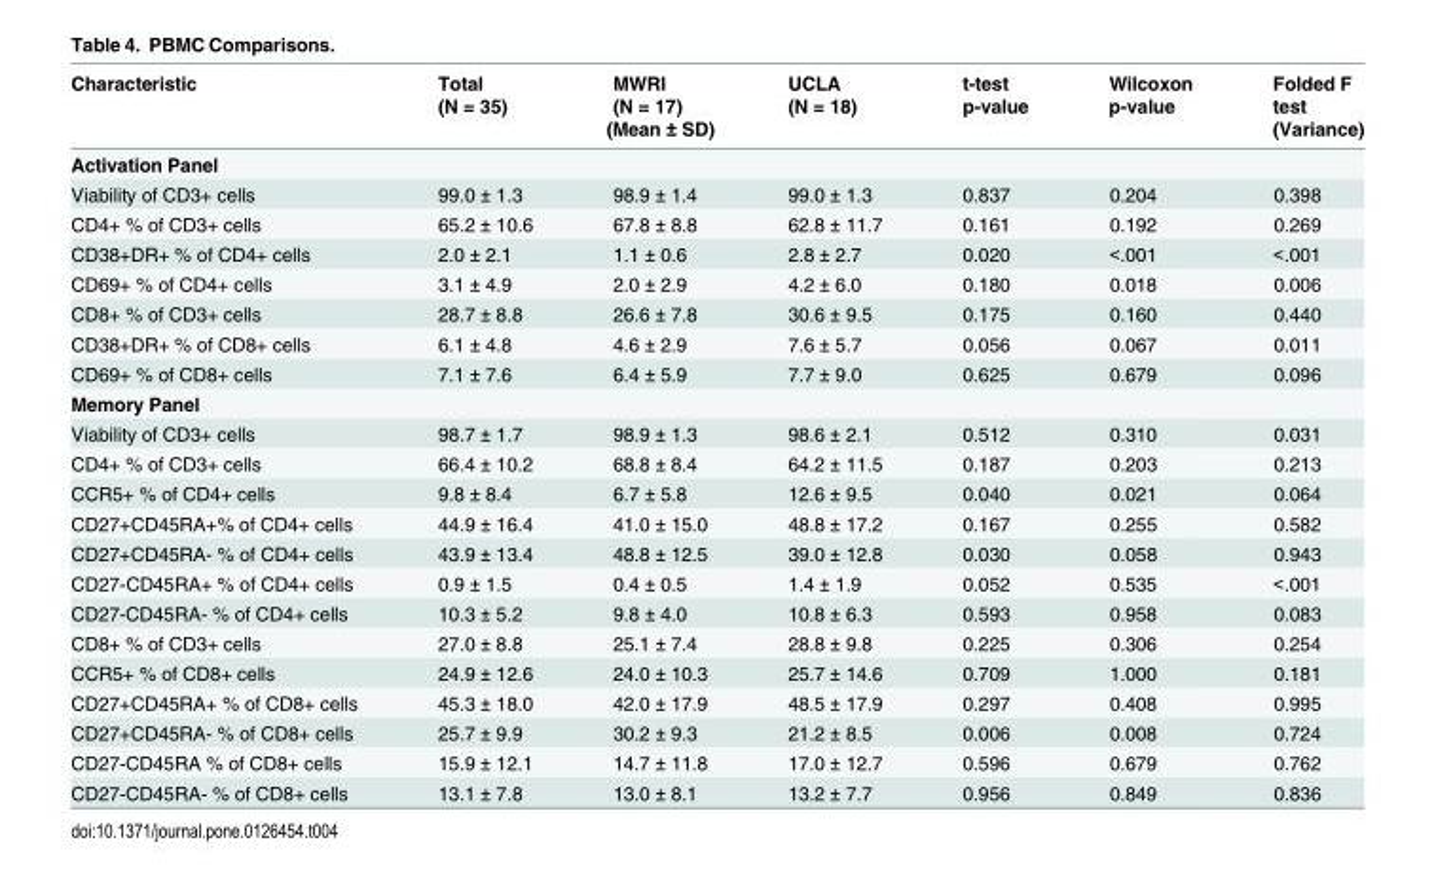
<table><thead><tr><td rowspan="3">Characteristic</td><td rowspan="2">Total (N = 35)</td><td rowspan="2">MWRI (N = 17)</td><td rowspan="2">UCLA (N = 18)</td><td rowspan="3">t-test p-value</td><td rowspan="3">Wilcoxon p-value</td><td rowspan="3">Folded F test (Variance)</td></tr><tr></tr><tr><td colspan="3">(Mean ± SD)</td></tr></thead><tbody><tr><td colspan="7">Activation Panel</td></tr><tr><td>Viability of CD3+ cells</td><td>99.0 ± 1.3</td><td>98.9 ± 1.4</td><td>99.0 ± 1.3</td><td>0.837</td><td>0.204</td><td>0.398</td></tr><tr><td>CD4+ % of CD3+ cells</td><td>65.2 ± 10.6</td><td>67.8 ± 8.8</td><td>62.8 ± 11.7</td><td>0.161</td><td>0.192</td><td>0.269</td></tr><tr><td>CD38+DR+ % of CD4+ cells</td><td>2.0 ± 2.1</td><td>1.1 ± 0.6</td><td>2.8 ± 2.7</td><td>0.020</td><td>&lt;.001</td><td>&lt;.001</td></tr><tr><td>CD69+ % of CD4+ cells</td><td>3.1 ± 4.9</td><td>2.0 ± 2.9</td><td>4.2 ± 6.0</td><td>0.180</td><td>0.018</td><td>0.006</td></tr><tr><td>CD8+ % of CD3+ cells</td><td>28.7 ± 8.8</td><td>26.6 ± 7.8</td><td>30.6 ± 9.5</td><td>0.175</td><td>0.160</td><td>0.440</td></tr><tr><td>CD38+DR+ % of CD8+ cells</td><td>6.1 ± 4.8</td><td>4.6 ± 2.9</td><td>7.6 ± 5.7</td><td>0.056</td><td>0.067</td><td>0.011</td></tr><tr><td>CD69+ % of CD8+ cells</td><td>7.1 ± 7.6</td><td>6.4 ± 5.9</td><td>7.7 ± 9.0</td><td>0.625</td><td>0.679</td><td>0.096</td></tr><tr><td colspan="7">Memory Panel</td></tr><tr><td>Viability of CD3+ cells</td><td>98.7 ± 1.7</td><td>98.9 ± 1.3</td><td>98.6 ± 2.1</td><td>0.512</td><td>0.310</td><td>0.031</td></tr><tr><td>CD4+ % of CD3+ cells</td><td>66.4 ± 10.2</td><td>68.8 ± 8.4</td><td>64.2 ± 11.5</td><td>0.187</td><td>0.203</td><td>0.213</td></tr><tr><td>CCR5+ % of CD4+ cells</td><td>9.8 ± 8.4</td><td>6.7 ± 5.8</td><td>12.6 ± 9.5</td><td>0.040</td><td>0.021</td><td>0.064</td></tr><tr><td>CD27+CD45RA+% of CD4+ cells</td><td>44.9 ± 16.4</td><td>41.0 ± 15.0</td><td>48.8 ± 17.2</td><td>0.167</td><td>0.255</td><td>0.582</td></tr><tr><td>CD27+CD45RA- % of CD4+ cells</td><td>43.9 ± 13.4</td><td>48.8 ± 12.5</td><td>39.0 ± 12.8</td><td>0.030</td><td>0.058</td><td>0.943</td></tr><tr><td>CD27-CD45RA+ % of CD4+ cells</td><td>0.9 ± 1.5</td><td>0.4 ± 0.5</td><td>1.4 ± 1.9</td><td>0.052</td><td>0.535</td><td>&lt;.001</td></tr><tr><td>CD27-CD45RA- % of CD4+ cells</td><td>10.3 ± 5.2</td><td>9.8 ± 4.0</td><td>10.8 ± 6.3</td><td>0.593</td><td>0.958</td><td>0.083</td></tr><tr><td>CD8+ % of CD3+ cells</td><td>27.0 ± 8.8</td><td>25.1 ± 7.4</td><td>28.8 ± 9.8</td><td>0.225</td><td>0.306</td><td>0.254</td></tr><tr><td>CCR5+ % of CD8+ cells</td><td>24.9 ± 12.6</td><td>24.0 ± 10.3</td><td>25.7 ± 14.6</td><td>0.709</td><td>1.000</td><td>0.181</td></tr><tr><td>CD27+CD45RA+ % of CD8+ cells</td><td>45.3 ± 18.0</td><td>42.0 ± 17.9</td><td>48.5 ± 17.9</td><td>0.297</td><td>0.408</td><td>0.995</td></tr><tr><td>CD27+CD45RA- % of CD8+ cells</td><td>25.7 ± 9.9</td><td>30.2 ± 9.3</td><td>21.2 ± 8.5</td><td>0.006</td><td>0.008</td><td>0.724</td></tr><tr><td>CD27-CD45RA % of CD8+ cells</td><td>15.9 ± 12.1</td><td>14.7 ± 11.8</td><td>17.0 ± 12.7</td><td>0.596</td><td>0.679</td><td>0.762</td></tr><tr><td>CD27-CD45RA- % of CD8+ cells</td><td>13.1 ± 7.8</td><td>13.0 ± 8.1</td><td>13.2 ± 7.7</td><td>0.956</td><td>0.849</td><td>0.836</td></tr></tbody></table>